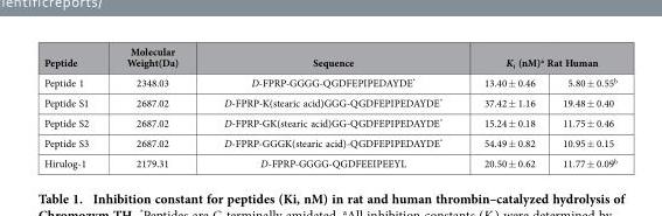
<table><thead><tr><td rowspan="2">Peptide Peptide 1</td><td rowspan="2">Molecular Weight(Da) 2348.03</td><td rowspan="2">Sequence D-FPRP-GGGG-QGDFEPIPEDAYDE*</td><td colspan="2">K<sub>i</sub> (nM)<sup>a</sup> Rat Human</td></tr><tr><td>13.40 ± 0.46</td><td>5.80 ± 0.55<sup>b</sup></td></tr></thead><tbody><tr><td>Peptide S1</td><td>2687.02</td><td>D-FPRP-K(stearic acid)GGG-QGDFEPIPEDAYDE*</td><td>37.42 ± 1.16</td><td>19.48 ± 0.40</td></tr><tr><td>Peptide S2</td><td>2687.02</td><td>D-FPRP-GK(stearic acid)GG-QGDFEPIPEDAYDE*</td><td>15.24 ± 0.18</td><td>11.75 ± 0.46</td></tr><tr><td>Peptide S3</td><td>2687.02</td><td>D-FPRP-GGGK(stearic acid)-QGDFEPIPEDAYDE*</td><td>54.49 ± 0.82</td><td>10.95 ± 0.15</td></tr><tr><td>Hirulog-1</td><td>2179.31</td><td>D-FPRP-GGGG-QGDFEEIPEEYL</td><td>20.50 ± 0.62</td><td>11.77 ± 0.09<sup>b</sup></td></tr></tbody></table>